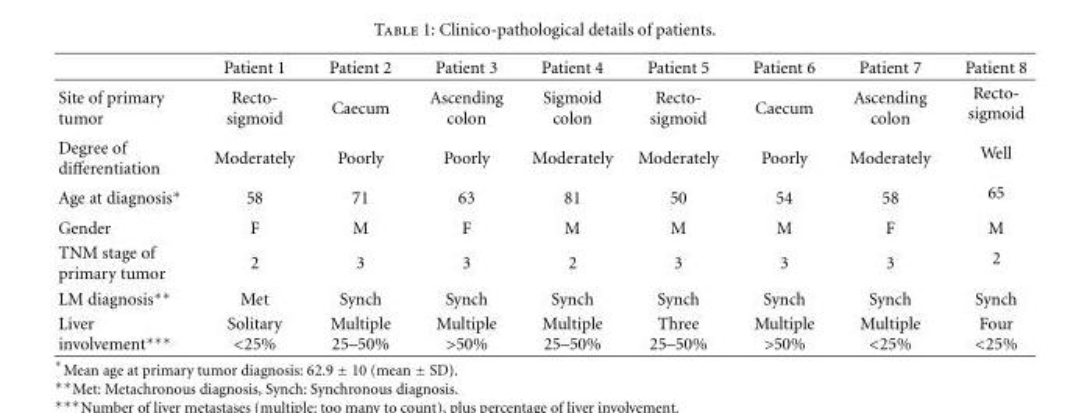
<table><thead><tr><td></td><td>Patient 1</td><td>Patient 2</td><td>Patient 3</td><td>Patient 4</td><td>Patient 5</td><td>Patient 6</td><td>Patient 7</td><td>Patient 8</td></tr></thead><tbody><tr><td>Site of primary tumor</td><td>Recto- sigmoid</td><td>Caecum</td><td>Ascending colon</td><td>Sigmoid colon</td><td>Recto- sigmoid</td><td>Caecum</td><td>Ascending colon</td><td>Recto- sigmoid</td></tr><tr><td>Degree of differentiation</td><td>Moderately</td><td>Poorly</td><td>Poorly</td><td>Moderately</td><td>Moderately</td><td>Poorly</td><td>Moderately</td><td>Well</td></tr><tr><td>Age at diagnosis∗</td><td>58</td><td>71</td><td>63</td><td>81</td><td>50</td><td>54</td><td>58</td><td>65</td></tr><tr><td>Gender</td><td>F</td><td>M</td><td>F</td><td>M</td><td>M</td><td>M</td><td>F</td><td>M</td></tr><tr><td>TNM stage of primary tumor</td><td>2</td><td>3</td><td>3</td><td>2</td><td>3</td><td>3</td><td>3</td><td>2</td></tr><tr><td>LM diagnosis∗∗</td><td>Met</td><td>Synch</td><td>Synch</td><td>Synch</td><td>Synch</td><td>Synch</td><td>Synch</td><td>Synch</td></tr><tr><td>Liver involvement∗∗∗</td><td>Solitary &lt;25%</td><td>Multiple 25–50%</td><td>Multiple &gt;50%</td><td>Multiple 25–50%</td><td>Three 25–50%</td><td>Multiple &gt;50%</td><td>Multiple &lt;25%</td><td>Four &lt;25%</td></tr></tbody></table>